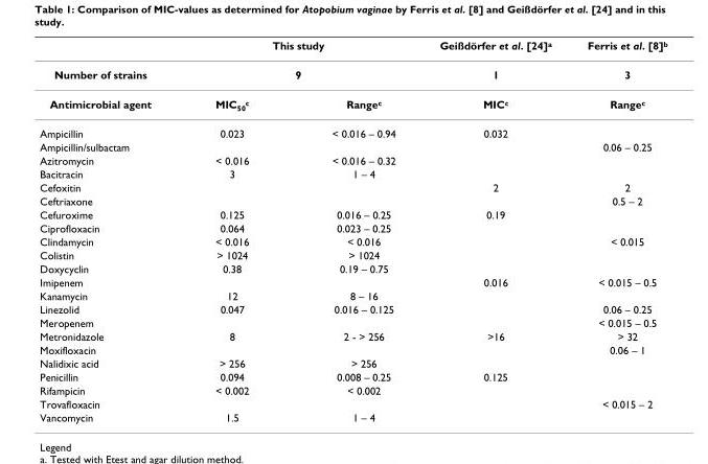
<table><thead><tr><td rowspan="3">Number of strains Antimicrobial agent</td><td rowspan="2" colspan="2">This study 9</td><td rowspan="3">Geißdörfer et al. [24]a 1 MICc</td><td rowspan="3">Ferris et al. [8]b 3 Rangec</td></tr><tr></tr><tr><td>MIC50c</td><td>Rangec</td></tr></thead><tbody><tr><td>Ampicillin</td><td>0.023</td><td>&lt; 0.016 – 0.94</td><td>0.032</td><td></td></tr><tr><td>Ampicillin/sulbactam</td><td></td><td></td><td></td><td>0.06 – 0.25</td></tr><tr><td>Azitromycin</td><td>&lt; 0.016</td><td>&lt; 0.016 – 0.32</td><td></td><td></td></tr><tr><td>Bacitracin</td><td>3</td><td>1 – 4</td><td></td><td></td></tr><tr><td>Cefoxitin</td><td></td><td></td><td>2</td><td>2</td></tr><tr><td>Ceftriaxone</td><td></td><td></td><td></td><td>0.5 – 2</td></tr><tr><td>Cefuroxime</td><td>0.125</td><td>0.016 – 0.25</td><td>0.19</td><td></td></tr><tr><td>Ciprofloxacin</td><td>0.064</td><td>0.023 – 0.25</td><td></td><td></td></tr><tr><td>Clindamycin</td><td>&lt; 0.016</td><td>&lt; 0.016</td><td></td><td>&lt; 0.015</td></tr><tr><td>Colistin</td><td>&gt; 1024</td><td>&gt; 1024</td><td></td><td></td></tr><tr><td>Doxycyclin</td><td>0.38</td><td>0.19 – 0.75</td><td></td><td></td></tr><tr><td>Imipenem</td><td></td><td></td><td>0.016</td><td>&lt; 0.015 – 0.5</td></tr><tr><td>Kanamycin</td><td>12</td><td>8 – 16</td><td></td><td></td></tr><tr><td>Linezolid</td><td>0.047</td><td>0.016 – 0.125</td><td></td><td>0.06 – 0.25</td></tr><tr><td>Meropenem</td><td></td><td></td><td></td><td>&lt; 0.015 – 0.5</td></tr><tr><td>Metronidazole</td><td>8</td><td>2 - &gt; 256</td><td>&gt;16</td><td>&gt; 32</td></tr><tr><td>Moxifloxacin</td><td></td><td></td><td></td><td>0.06 – 1</td></tr><tr><td>Nalidixic acid</td><td>&gt; 256</td><td>&gt; 256</td><td></td><td></td></tr><tr><td>Penicillin</td><td>0.094</td><td>0.008 – 0.25</td><td>0.125</td><td></td></tr><tr><td>Rifampicin</td><td>&lt; 0.002</td><td>&lt; 0.002</td><td></td><td></td></tr><tr><td>Trovafloxacin</td><td></td><td></td><td></td><td>&lt; 0.015 – 2</td></tr><tr><td>Vancomycin</td><td>1.5</td><td>1 – 4</td><td></td><td></td></tr></tbody></table>